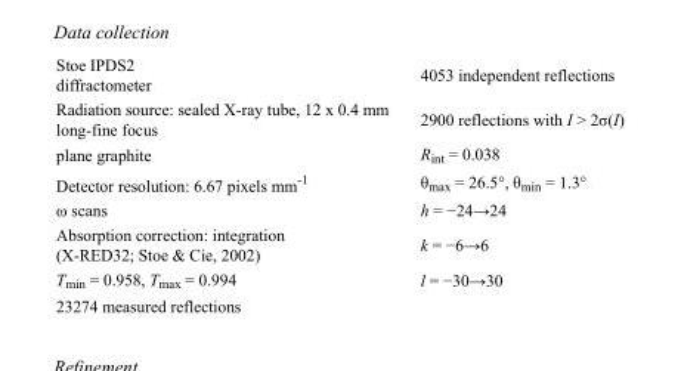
<table><tbody><tr><td>Stoe IPDS2 diffractometer</td><td>4053 independent reflections</td></tr><tr><td>Radiation source: sealed X-ray tube, 12 x 0.4 mm long-fine focus</td><td>2900 reflections with I &gt; 2σ(I)</td></tr><tr><td>plane graphite</td><td>R<sub>int</sub> = 0.038</td></tr><tr><td>Detector resolution: 6.67 pixels mm<sup>-1</sup></td><td>θ<sub>max</sub> = 26.5°, θ<sub>min</sub> = 1.3°</td></tr><tr><td>ω scans</td><td>h = −24→24</td></tr><tr><td>Absorption correction: integration (X-RED32; Stoe &amp; Cie, 2002)</td><td>k = −6→6</td></tr><tr><td>T<sub>min</sub> = 0.958, T<sub>max</sub> = 0.994</td><td>l = −30→30</td></tr><tr><td>23274 measured reflections</td><td></td></tr></tbody></table>